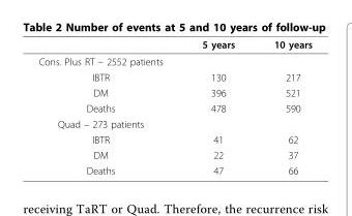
<table><thead><tr><td></td><td>5 years</td><td>10 years</td></tr></thead><tbody><tr><td colspan="3">Cons. Plus RT – 2552 patients</td></tr><tr><td>IBTR</td><td>130</td><td>217</td></tr><tr><td>DM</td><td>396</td><td>521</td></tr><tr><td>Deaths</td><td>478</td><td>590</td></tr><tr><td colspan="3">Quad – 273 patients</td></tr><tr><td>IBTR</td><td>41</td><td>62</td></tr><tr><td>DM</td><td>22</td><td>37</td></tr><tr><td>Deaths</td><td>47</td><td>66</td></tr></tbody></table>